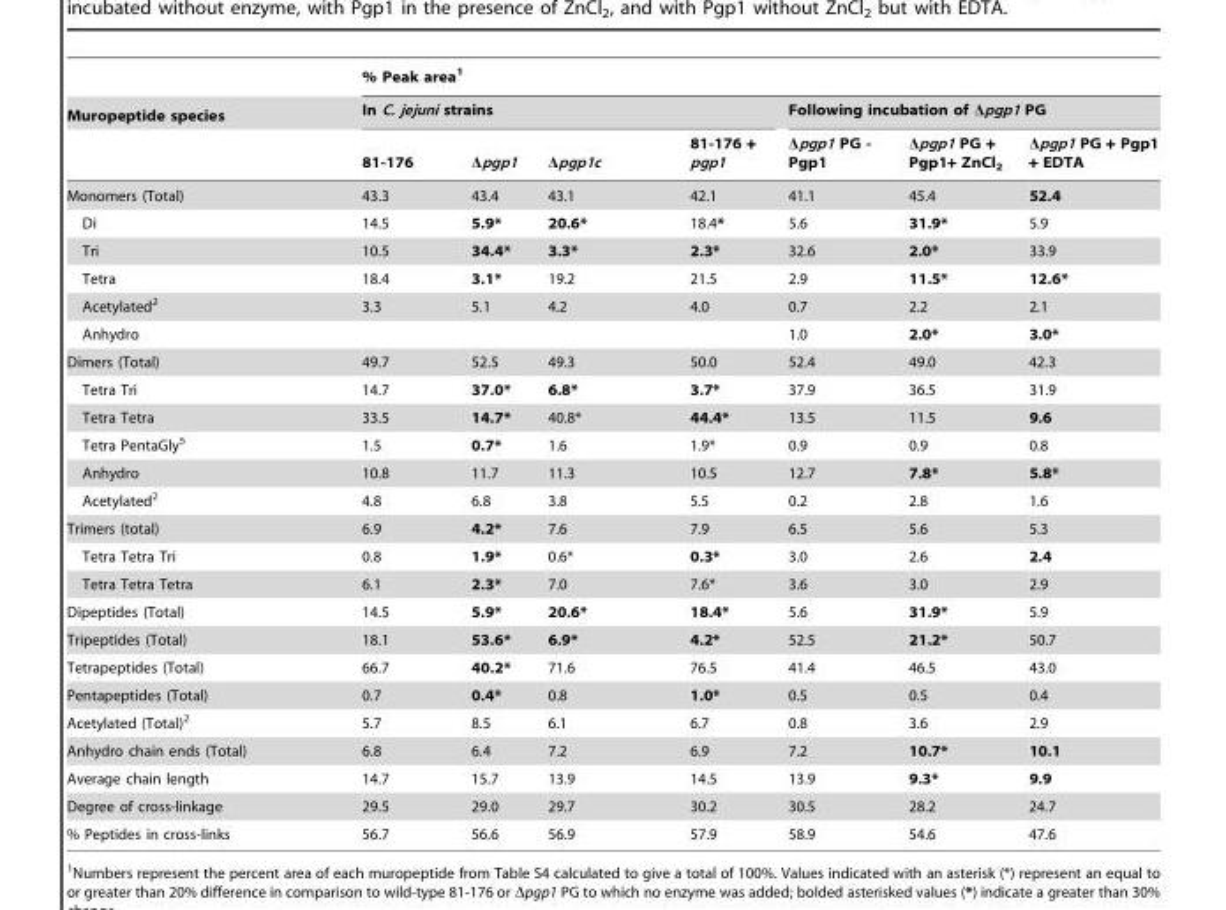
<table><thead><tr><td rowspan="3">Muropeptide species</td><td colspan="7">% Peak area<sup>1</sup></td></tr><tr><td colspan="4">In C. jejuni strains</td><td colspan="3">Following incubation of Δpgp1 PG</td></tr><tr><td>81-176</td><td>Δpgp1</td><td>Δpgp1c</td><td>81-176 + pgp1</td><td>Δpgp1 PG - Pgp1</td><td>Δpgp1 PG + Pgp1+ ZnCl<sub>2</sub></td><td>Δpgp1 PG + Pgp1 + EDTA</td></tr></thead><tbody><tr><td>Monomers (Total)</td><td>43.3</td><td>43.4</td><td>43.1</td><td>42.1</td><td>41.1</td><td>45.4</td><td>52.4</td></tr><tr><td>Di</td><td>14.5</td><td>5.9*</td><td>20.6*</td><td>18.4*</td><td>5.6</td><td>31.9*</td><td>5.9</td></tr><tr><td>Tri</td><td>10.5</td><td>34.4*</td><td>3.3*</td><td>2.3*</td><td>32.6</td><td>2.0*</td><td>33.9</td></tr><tr><td>Tetra</td><td>18.4</td><td>3.1*</td><td>19.2</td><td>21.5</td><td>2.9</td><td>11.5*</td><td>12.6*</td></tr><tr><td>Acetylated<sup>2</sup></td><td>3.3</td><td>5.1</td><td>4.2</td><td>4.0</td><td>0.7</td><td>2.2</td><td>2.1</td></tr><tr><td>Anhydro</td><td></td><td></td><td></td><td></td><td>1.0</td><td>2.0*</td><td>3.0*</td></tr><tr><td>Dimers (Total)</td><td>49.7</td><td>52.5</td><td>49.3</td><td>50.0</td><td>52.4</td><td>49.0</td><td>42.3</td></tr><tr><td>Tetra Tri</td><td>14.7</td><td>37.0*</td><td>6.8*</td><td>3.7*</td><td>37.9</td><td>36.5</td><td>31.9</td></tr><tr><td>Tetra Tetra</td><td>33.5</td><td>14.7*</td><td>40.8*</td><td>44.4*</td><td>13.5</td><td>11.5</td><td>9.6</td></tr><tr><td>Tetra PentaGly<sup>5</sup></td><td>1.5</td><td>0.7*</td><td>1.6</td><td>1.9*</td><td>0.9</td><td>0.9</td><td>0.8</td></tr><tr><td>Anhydro</td><td>10.8</td><td>11.7</td><td>11.3</td><td>10.5</td><td>12.7</td><td>7.8*</td><td>5.8*</td></tr><tr><td>Acetylated<sup>2</sup></td><td>4.8</td><td>6.8</td><td>3.8</td><td>5.5</td><td>0.2</td><td>2.8</td><td>1.6</td></tr><tr><td>Trimers (total)</td><td>6.9</td><td>4.2*</td><td>7.6</td><td>7.9</td><td>6.5</td><td>5.6</td><td>5.3</td></tr><tr><td>Tetra Tetra Tri</td><td>0.8</td><td>1.9*</td><td>0.6*</td><td>0.3*</td><td>3.0</td><td>2.6</td><td>2.4</td></tr><tr><td>Tetra Tetra Tetra</td><td>6.1</td><td>2.3*</td><td>7.0</td><td>7.6*</td><td>3.6</td><td>3.0</td><td>2.9</td></tr><tr><td>Dipeptides (Total)</td><td>14.5</td><td>5.9*</td><td>20.6*</td><td>18.4*</td><td>5.6</td><td>31.9*</td><td>5.9</td></tr><tr><td>Tripeptides (Total)</td><td>18.1</td><td>53.6*</td><td>6.9*</td><td>4.2*</td><td>52.5</td><td>21.2*</td><td>50.7</td></tr><tr><td>Tetrapeptides (Total)</td><td>66.7</td><td>40.2*</td><td>71.6</td><td>76.5</td><td>41.4</td><td>46.5</td><td>43.0</td></tr><tr><td>Pentapeptides (Total)</td><td>0.7</td><td>0.4*</td><td>0.8</td><td>1.0*</td><td>0.5</td><td>0.5</td><td>0.4</td></tr><tr><td>Acetylated (Total)<sup>2</sup></td><td>5.7</td><td>8.5</td><td>6.1</td><td>6.7</td><td>0.8</td><td>3.6</td><td>2.9</td></tr><tr><td>Anhydro chain ends (Total)</td><td>6.8</td><td>6.4</td><td>7.2</td><td>6.9</td><td>7.2</td><td>10.7*</td><td>10.1</td></tr><tr><td>Average chain length</td><td>14.7</td><td>15.7</td><td>13.9</td><td>14.5</td><td>13.9</td><td>9.3*</td><td>9.9</td></tr><tr><td>Degree of cross-linkage</td><td>29.5</td><td>29.0</td><td>29.7</td><td>30.2</td><td>30.5</td><td>28.2</td><td>24.7</td></tr><tr><td>% Peptides in cross-links</td><td>56.7</td><td>56.6</td><td>56.9</td><td>57.9</td><td>58.9</td><td>54.6</td><td>47.6</td></tr></tbody></table>